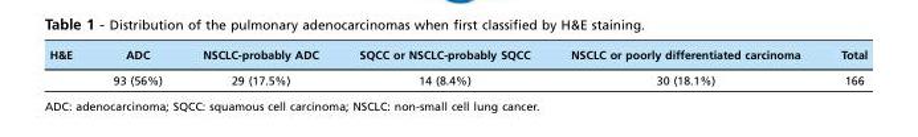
<table><thead><tr><td>H&amp;E</td><td>ADC</td><td>NSCLC-probably ADC</td><td>SQCC or NSCLC-probably SQCC</td><td>NSCLC or poorly differentiated carcinoma</td><td>Total</td></tr></thead><tbody><tr><td></td><td>93 (56%)</td><td>29 (17.5%)</td><td>14 (8.4%)</td><td>30 (18.1%)</td><td>166</td></tr></tbody></table>